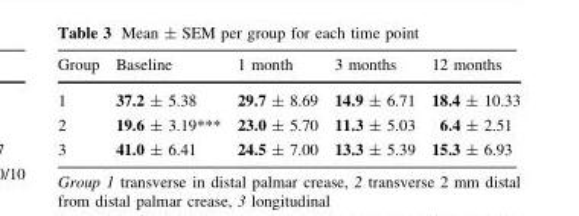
<table><thead><tr><td>Group</td><td>Baseline</td><td>1 month</td><td>3 months</td><td>12 months</td></tr></thead><tbody><tr><td>1</td><td>37.2 ± 5.38</td><td>29.7 ± 8.69</td><td>14.9 ± 6.71</td><td>18.4 ± 10.33</td></tr><tr><td>2</td><td>19.6 ± 3.19***</td><td>23.0 ± 5.70</td><td>11.3 ± 5.03</td><td>6.4 ± 2.51</td></tr><tr><td>3</td><td>41.0 ± 6.41</td><td>24.5 ± 7.00</td><td>13.3 ± 5.39</td><td>15.3 ± 6.93</td></tr></tbody></table>